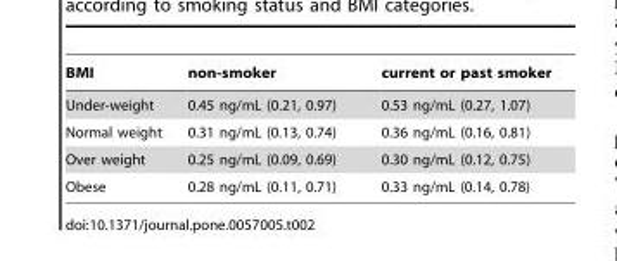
<table><thead><tr><td>BMI</td><td>non-smoker</td><td>current or past smoker</td></tr></thead><tbody><tr><td>Under-weight</td><td>0.45 ng/mL (0.21, 0.97)</td><td>0.53 ng/mL (0.27, 1.07)</td></tr><tr><td>Normal weight</td><td>0.31 ng/mL (0.13, 0.74)</td><td>0.36 ng/mL (0.16, 0.81)</td></tr><tr><td>Over weight</td><td>0.25 ng/mL (0.09, 0.69)</td><td>0.30 ng/mL (0.12, 0.75)</td></tr><tr><td>Obese</td><td>0.28 ng/mL (0.11, 0.71)</td><td>0.33 ng/mL (0.14, 0.78)</td></tr></tbody></table>